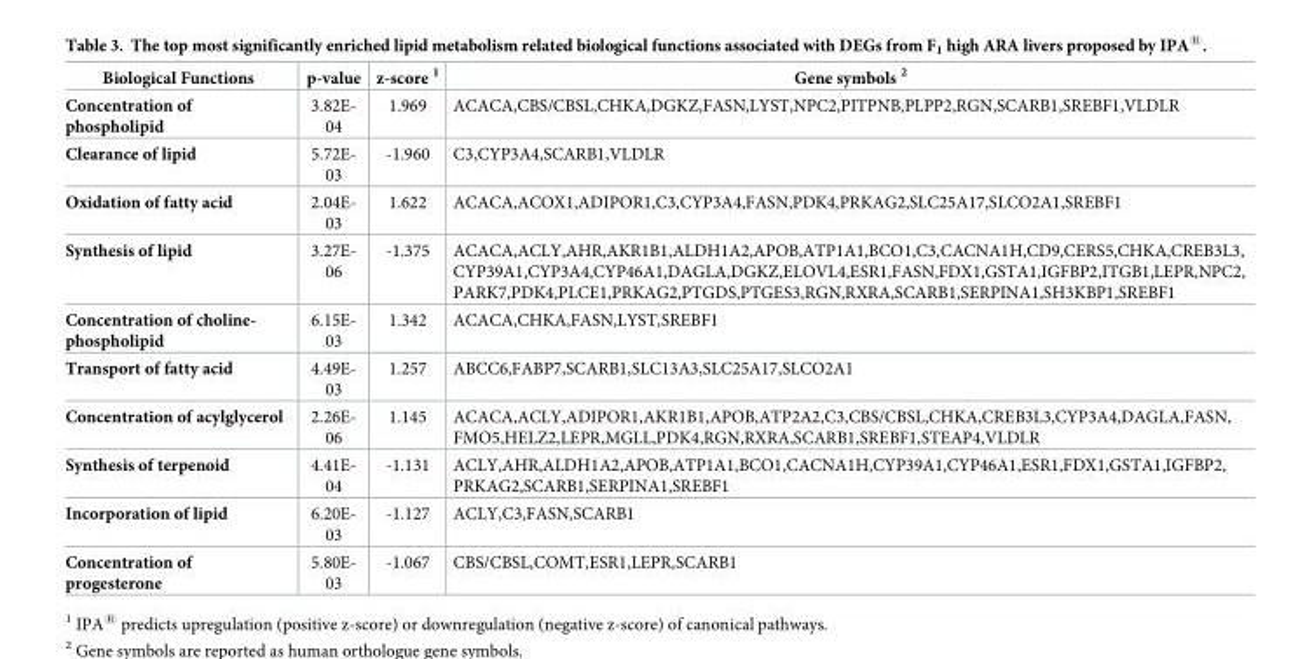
<table><thead><tr><td>Biological Functions</td><td>p-value</td><td>z-score <sup>1</sup></td><td>Gene symbols <sup>2</sup></td></tr></thead><tbody><tr><td>Concentration of phospholipid</td><td>3.82E- 04</td><td>1.969</td><td>ACACA,CBS/CBSL,CHKA,DGKZ,FASN,LYST,NPC2,PITPNB,PLPP2,RGN,SCARB1,SREBF1,VLDLR</td></tr><tr><td>Clearance of lipid</td><td>5.72E- 03</td><td>-1.960</td><td>C3,CYP3A4,SCARB1,VLDLR</td></tr><tr><td>Oxidation of fatty acid</td><td>2.04E- 03</td><td>1.622</td><td>ACACA,ACOX1,ADIPOR1,C3,CYP3A4,FASN,PDK4,PRKAG2,SLC25A17,SLCO2A1,SREBF1</td></tr><tr><td>Synthesis of lipid</td><td>3.27E- 06</td><td>-1.375</td><td>ACACA,ACLY,AHR,AKR1B1,ALDH1A2,APOB,ATP1A1,BCO1,C3,CACNA1H,CD9,CERS5,CHKA,CREB3L3, CYP39A1,CYP3A4,CYP46A1,DAGLA,DGKZ,ELOVL4,ESR1,FASN,FDX1,GSTA1,IGFBP2,ITGB1,LEPR,NPC2, PARK7,PDK4,PLCE1,PRKAG2,PTGDS,PTGES3,RGN,RXRA,SCARB1,SERPINA1,SH3KBP1,SREBF1</td></tr><tr><td>Concentration of choline- phospholipid</td><td>6.15E- 03</td><td>1.342</td><td>ACACA,CHKA,FASN,LYST,SREBF1</td></tr><tr><td>Transport of fatty acid</td><td>4.49E- 03</td><td>1.257</td><td>ABCC6,FABP7,SCARB1,SLC13A3,SLC25A17,SLCO2A1</td></tr><tr><td>Concentration of acylglycerol</td><td>2.26E- 06</td><td>1.145</td><td>ACACA,ACLY,ADIPOR1,AKR1B1,APOB,ATP2A2,C3,CBS/CBSL,CHKA,CREB3L3,CYP3A4,DAGLA,FASN, FMO5,HELZ2,LEPR,MGLL,PDK4,RGN,RXRA,SCARB1,SREBF1,STEAP4,VLDLR</td></tr><tr><td>Synthesis of terpenoid</td><td>4.41E- 04</td><td>-1.131</td><td>ACLY,AHR,ALDH1A2,APOB,ATP1A1,BCO1,CACNA1H,CYP39A1,CYP46A1,ESR1,FDX1,GSTA1,IGFBP2, PRKAG2,SCARB1,SERPINA1,SREBF1</td></tr><tr><td>Incorporation of lipid</td><td>6.20E- 03</td><td>-1.127</td><td>ACLY,C3,FASN,SCARB1</td></tr><tr><td>Concentration of progesterone</td><td>5.80E- 03</td><td>-1.067</td><td>CBS/CBSL,COMT,ESR1,LEPR,SCARB1</td></tr></tbody></table>